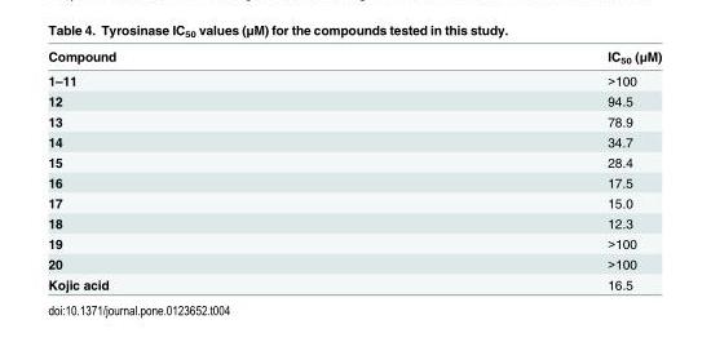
<table><thead><tr><td>Compound</td><td>IC<sub>50</sub> (μM)</td></tr></thead><tbody><tr><td>1–11</td><td>&gt;100</td></tr><tr><td>12</td><td>94.5</td></tr><tr><td>13</td><td>78.9</td></tr><tr><td>14</td><td>34.7</td></tr><tr><td>15</td><td>28.4</td></tr><tr><td>16</td><td>17.5</td></tr><tr><td>17</td><td>15.0</td></tr><tr><td>18</td><td>12.3</td></tr><tr><td>19</td><td>&gt;100</td></tr><tr><td>20</td><td>&gt;100</td></tr><tr><td>Kojic acid</td><td>16.5</td></tr></tbody></table>